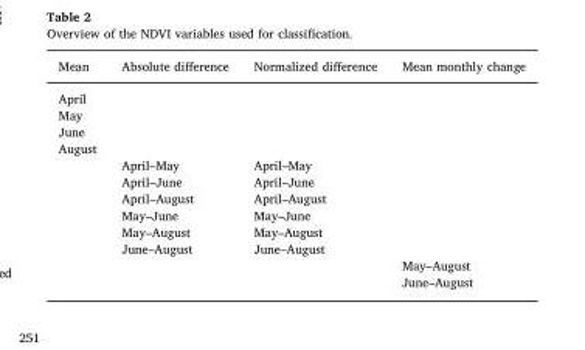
<table><thead><tr><td>Mean</td><td>Absolute difference</td><td>Normalized difference</td><td>Mean monthly change</td></tr></thead><tbody><tr><td colspan="4">April</td></tr><tr><td colspan="4">May</td></tr><tr><td colspan="4">June</td></tr><tr><td colspan="4">August</td></tr><tr><td></td><td>April–May</td><td>April–May</td><td></td></tr><tr><td></td><td>April–June</td><td>April–June</td><td></td></tr><tr><td></td><td>April–August</td><td>April–August</td><td></td></tr><tr><td></td><td>May–June</td><td>May–June</td><td></td></tr><tr><td></td><td>May–August</td><td>May–August</td><td></td></tr><tr><td></td><td>June–August</td><td>June–August</td><td></td></tr><tr><td></td><td></td><td></td><td>May–August</td></tr><tr><td></td><td></td><td></td><td>June–August</td></tr></tbody></table>